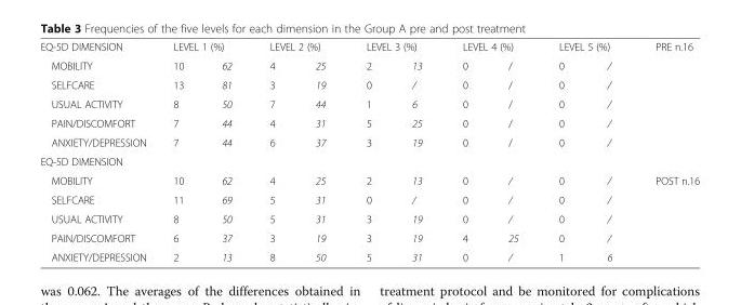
<table><tbody><tr><td>EQ-5D DIMENSION</td><td colspan="2">LEVEL 1 (%)</td><td colspan="2">LEVEL 2 (%)</td><td colspan="2">LEVEL 3 (%)</td><td colspan="2">LEVEL 4 (%)</td><td colspan="2">LEVEL 5 (%)</td><td>PRE n.16</td></tr><tr><td>MOBILITY</td><td>10</td><td>62</td><td>4</td><td>25</td><td>2</td><td>13</td><td>0</td><td>/</td><td>0</td><td>/</td><td rowspan="5"></td></tr><tr><td>SELFCARE</td><td>13</td><td>81</td><td>3</td><td>19</td><td>0</td><td>/</td><td>0</td><td>/</td><td>0</td><td>/</td></tr><tr><td>USUAL ACTIVITY</td><td>8</td><td>50</td><td>7</td><td>44</td><td>1</td><td>6</td><td>0</td><td>/</td><td>0</td><td>/</td></tr><tr><td>PAIN/DISCOMFORT</td><td>7</td><td>44</td><td>4</td><td>31</td><td>5</td><td>25</td><td>0</td><td>/</td><td>0</td><td>/</td></tr><tr><td>ANXIETY/DEPRESSION</td><td>7</td><td>44</td><td>6</td><td>37</td><td>3</td><td>19</td><td>0</td><td>/</td><td>0</td><td>/</td></tr><tr><td colspan="12">EQ-5D DIMENSION</td></tr><tr><td>MOBILITY</td><td>10</td><td>62</td><td>4</td><td>25</td><td>2</td><td>13</td><td>0</td><td>/</td><td>0</td><td>/</td><td rowspan="5">POST n.16</td></tr><tr><td>SELFCARE</td><td>11</td><td>69</td><td>5</td><td>31</td><td>0</td><td>/</td><td>0</td><td>/</td><td>0</td><td>/</td></tr><tr><td>USUAL ACTIVITY</td><td>8</td><td>50</td><td>5</td><td>31</td><td>3</td><td>19</td><td>0</td><td>/</td><td>0</td><td>/</td></tr><tr><td>PAIN/DISCOMFORT</td><td>6</td><td>37</td><td>3</td><td>19</td><td>3</td><td>19</td><td>4</td><td>25</td><td>0</td><td>/</td></tr><tr><td>ANXIETY/DEPRESSION</td><td>2</td><td>13</td><td>8</td><td>50</td><td>5</td><td>31</td><td>0</td><td>/</td><td>1</td><td>6</td></tr></tbody></table>